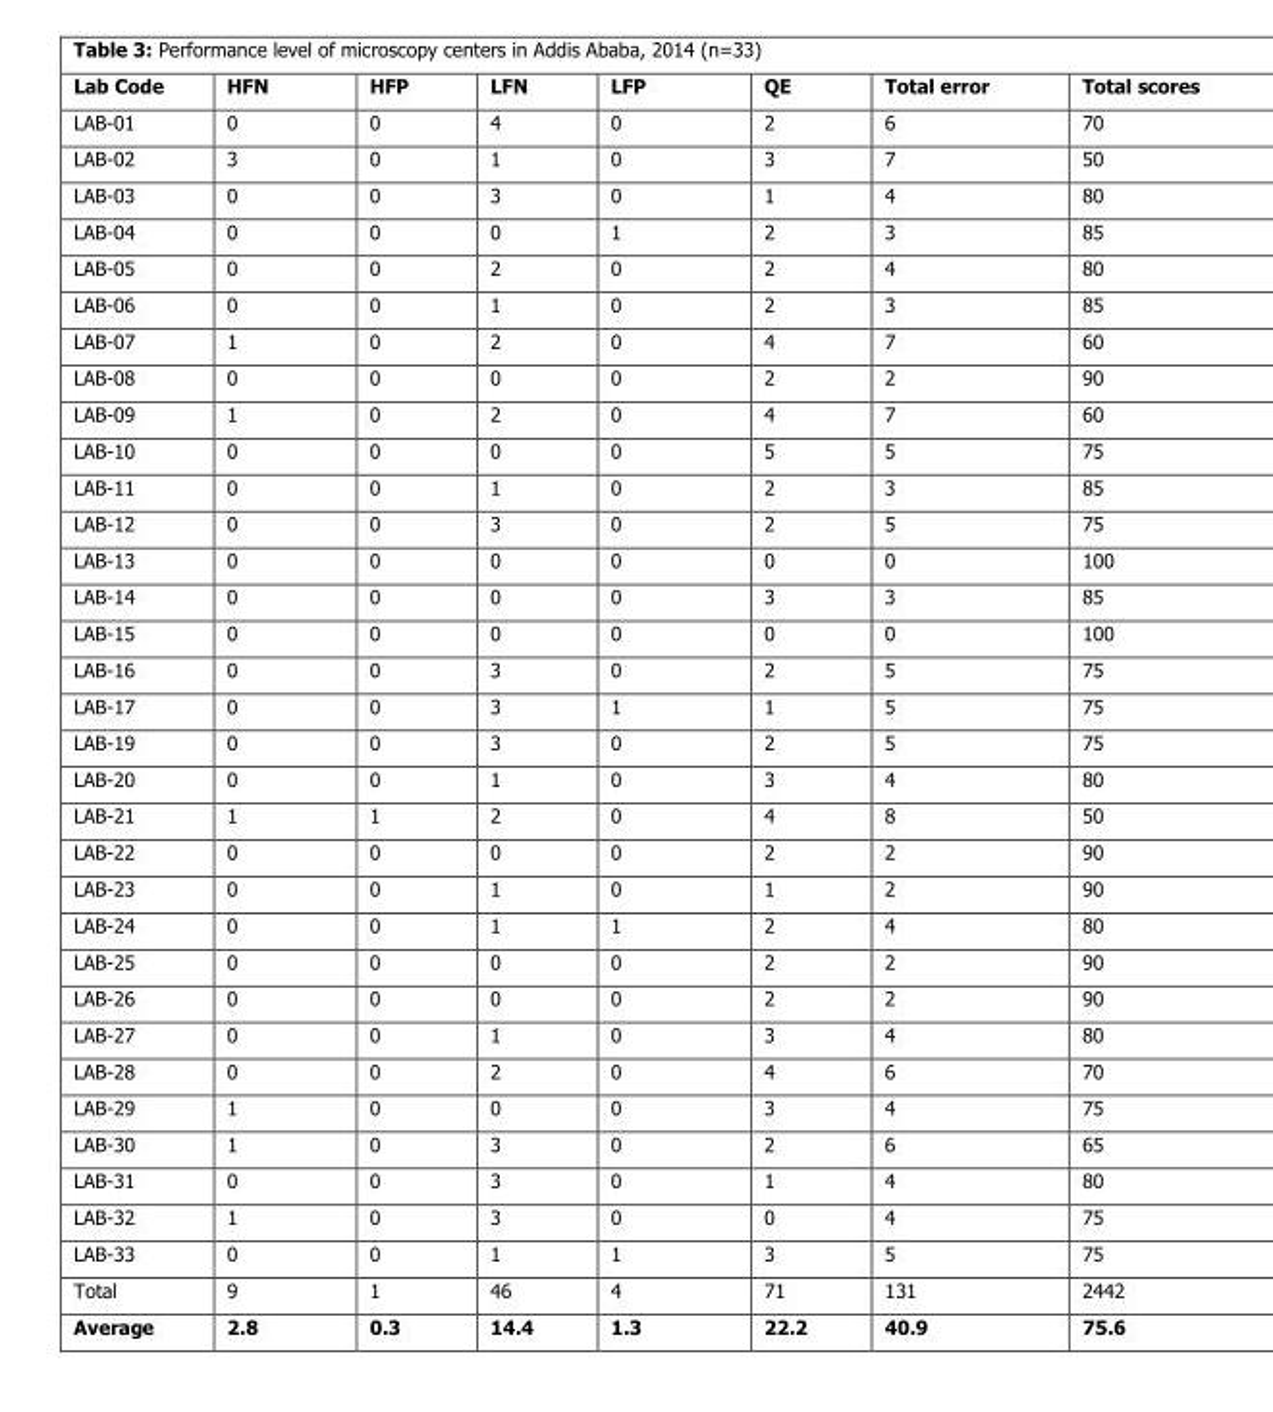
<table><thead><tr><td>Lab Code</td><td>HFN</td><td>HFP</td><td>LFN</td><td>LFP</td><td>QE</td><td>Total error</td><td>Total scores</td></tr></thead><tbody><tr><td>LAB-01</td><td>0</td><td>0</td><td>4</td><td>0</td><td>2</td><td>6</td><td>70</td></tr><tr><td>LAB-02</td><td>3</td><td>0</td><td>1</td><td>0</td><td>3</td><td>7</td><td>50</td></tr><tr><td>LAB-03</td><td>0</td><td>0</td><td>3</td><td>0</td><td>1</td><td>4</td><td>80</td></tr><tr><td>LAB-04</td><td>0</td><td>0</td><td>0</td><td>1</td><td>2</td><td>3</td><td>85</td></tr><tr><td>LAB-05</td><td>0</td><td>0</td><td>2</td><td>0</td><td>2</td><td>4</td><td>80</td></tr><tr><td>LAB-06</td><td>0</td><td>0</td><td>1</td><td>0</td><td>2</td><td>3</td><td>85</td></tr><tr><td>LAB-07</td><td>1</td><td>0</td><td>2</td><td>0</td><td>4</td><td>7</td><td>60</td></tr><tr><td>LAB-08</td><td>0</td><td>0</td><td>0</td><td>0</td><td>2</td><td>2</td><td>90</td></tr><tr><td>LAB-09</td><td>1</td><td>0</td><td>2</td><td>0</td><td>4</td><td>7</td><td>60</td></tr><tr><td>LAB-10</td><td>0</td><td>0</td><td>0</td><td>0</td><td>5</td><td>5</td><td>75</td></tr><tr><td>LAB-11</td><td>0</td><td>0</td><td>1</td><td>0</td><td>2</td><td>3</td><td>85</td></tr><tr><td>LAB-12</td><td>0</td><td>0</td><td>3</td><td>0</td><td>2</td><td>5</td><td>75</td></tr><tr><td>LAB-13</td><td>0</td><td>0</td><td>0</td><td>0</td><td>0</td><td>0</td><td>100</td></tr><tr><td>LAB-14</td><td>0</td><td>0</td><td>0</td><td>0</td><td>3</td><td>3</td><td>85</td></tr><tr><td>LAB-15</td><td>0</td><td>0</td><td>0</td><td>0</td><td>0</td><td>0</td><td>100</td></tr><tr><td>LAB-16</td><td>0</td><td>0</td><td>3</td><td>0</td><td>2</td><td>5</td><td>75</td></tr><tr><td>LAB-17</td><td>0</td><td>0</td><td>3</td><td>1</td><td>1</td><td>5</td><td>75</td></tr><tr><td>LAB-19</td><td>0</td><td>0</td><td>3</td><td>0</td><td>2</td><td>5</td><td>75</td></tr><tr><td>LAB-20</td><td>0</td><td>0</td><td>1</td><td>0</td><td>3</td><td>4</td><td>80</td></tr><tr><td>LAB-21</td><td>1</td><td>1</td><td>2</td><td>0</td><td>4</td><td>8</td><td>50</td></tr><tr><td>LAB-22</td><td>0</td><td>0</td><td>0</td><td>0</td><td>2</td><td>2</td><td>90</td></tr><tr><td>LAB-23</td><td>0</td><td>0</td><td>1</td><td>0</td><td>1</td><td>2</td><td>90</td></tr><tr><td>LAB-24</td><td>0</td><td>0</td><td>1</td><td>1</td><td>2</td><td>4</td><td>80</td></tr><tr><td>LAB-25</td><td>0</td><td>0</td><td>0</td><td>0</td><td>2</td><td>2</td><td>90</td></tr><tr><td>LAB-26</td><td>0</td><td>0</td><td>0</td><td>0</td><td>2</td><td>2</td><td>90</td></tr><tr><td>LAB-27</td><td>0</td><td>0</td><td>1</td><td>0</td><td>3</td><td>4</td><td>80</td></tr><tr><td>LAB-28</td><td>0</td><td>0</td><td>2</td><td>0</td><td>4</td><td>6</td><td>70</td></tr><tr><td>LAB-29</td><td>1</td><td>0</td><td>0</td><td>0</td><td>3</td><td>4</td><td>75</td></tr><tr><td>LAB-30</td><td>1</td><td>0</td><td>3</td><td>0</td><td>2</td><td>6</td><td>65</td></tr><tr><td>LAB-31</td><td>0</td><td>0</td><td>3</td><td>0</td><td>1</td><td>4</td><td>80</td></tr><tr><td>LAB-32</td><td>1</td><td>0</td><td>3</td><td>0</td><td>0</td><td>4</td><td>75</td></tr><tr><td>LAB-33</td><td>0</td><td>0</td><td>1</td><td>1</td><td>3</td><td>5</td><td>75</td></tr><tr><td>Total</td><td>9</td><td>1</td><td>46</td><td>4</td><td>71</td><td>131</td><td>2442</td></tr><tr><td>Average</td><td>2.8</td><td>0.3</td><td>14.4</td><td>1.3</td><td>22.2</td><td>40.9</td><td>75.6</td></tr></tbody></table>